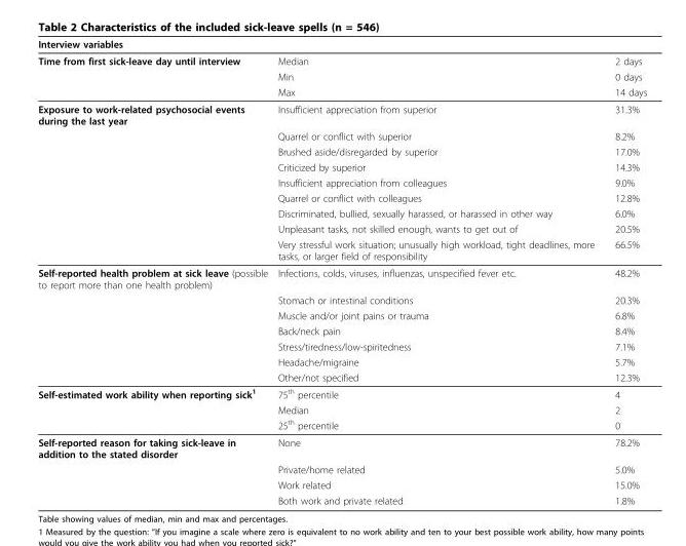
<table><thead><tr><td>Interview variables</td><td></td><td></td></tr></thead><tbody><tr><td rowspan="3">Time from first sick-leave day until interview</td><td>Median</td><td>2 days</td></tr><tr><td>Min</td><td>0 days</td></tr><tr><td>Max</td><td>14 days</td></tr><tr><td rowspan="9">Exposure to work-related psychosocial events during the last year</td><td>Insufficient appreciation from superior</td><td>31.3%</td></tr><tr><td>Quarrel or conflict with superior</td><td>8.2%</td></tr><tr><td>Brushed aside/disregarded by superior</td><td>17.0%</td></tr><tr><td>Criticized by superior</td><td>14.3%</td></tr><tr><td>Insufficient appreciation from colleagues</td><td>9.0%</td></tr><tr><td>Quarrel or conflict with colleagues</td><td>12.8%</td></tr><tr><td>Discriminated, bullied, sexually harassed, or harassed in other way</td><td>6.0%</td></tr><tr><td>Unpleasant tasks, not skilled enough, wants to get out of</td><td>20.5%</td></tr><tr><td>Very stressful work situation; unusually high workload, tight deadlines, more tasks, or larger field of responsibility</td><td>66.5%</td></tr><tr><td rowspan="7">Self-reported health problem at sick leave (possible to report more than one health problem)</td><td>Infections, colds, viruses, influenzas, unspecified fever etc.</td><td>48.2%</td></tr><tr><td>Stomach or intestinal conditions</td><td>20.3%</td></tr><tr><td>Muscle and/or joint pains or trauma</td><td>6.8%</td></tr><tr><td>Back/neck pain</td><td>8.4%</td></tr><tr><td>Stress/tiredness/low-spiritedness</td><td>7.1%</td></tr><tr><td>Headache/migraine</td><td>5.7%</td></tr><tr><td>Other/not specified</td><td>12.3%</td></tr><tr><td rowspan="3">Self-estimated work ability when reporting sick<sup>1</sup></td><td>75<sup>th</sup> percentile</td><td>4</td></tr><tr><td>Median</td><td>2</td></tr><tr><td>25<sup>th</sup> percentile</td><td>0</td></tr><tr><td rowspan="4">Self-reported reason for taking sick-leave in addition to the stated disorder</td><td>None</td><td>78.2%</td></tr><tr><td>Private/home related</td><td>5.0%</td></tr><tr><td>Work related</td><td>15.0%</td></tr><tr><td>Both work and private related</td><td>1.8%</td></tr></tbody></table>